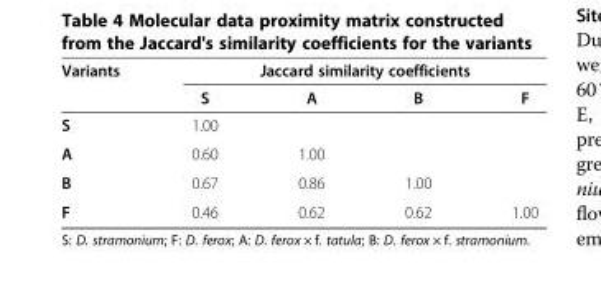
<table><thead><tr><td rowspan="2">Variants</td><td colspan="4">Jaccard similarity coefficients</td></tr><tr><td>S</td><td>A</td><td>B</td><td>F</td></tr></thead><tbody><tr><td>S</td><td>1.00</td><td></td><td></td><td></td></tr><tr><td>A</td><td>0.60</td><td>1.00</td><td></td><td></td></tr><tr><td>B</td><td>0.67</td><td>0.86</td><td>1.00</td><td></td></tr><tr><td>F</td><td>0.46</td><td>0.62</td><td>0.62</td><td>1.00</td></tr></tbody></table>